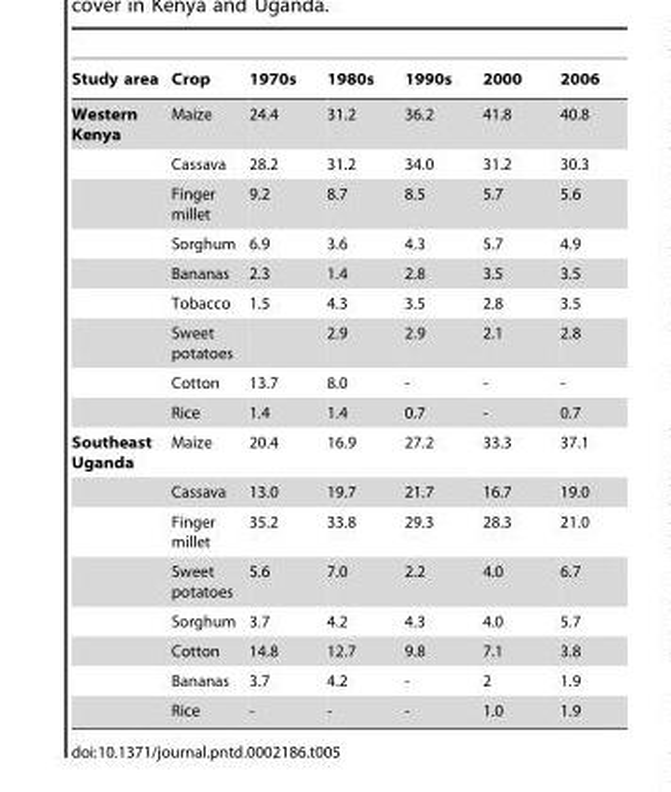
<table><thead><tr><td>Study area</td><td>Crop</td><td>1970s</td><td>1980s</td><td>1990s</td><td>2000</td><td>2006</td></tr></thead><tbody><tr><td rowspan="9">Western Kenya</td><td>Maize</td><td>24.4</td><td>31.2</td><td>36.2</td><td>41.8</td><td>40.8</td></tr><tr><td>Cassava</td><td>28.2</td><td>31.2</td><td>34.0</td><td>31.2</td><td>30.3</td></tr><tr><td>Finger millet</td><td>9.2</td><td>8.7</td><td>8.5</td><td>5.7</td><td>5.6</td></tr><tr><td>Sorghum</td><td>6.9</td><td>3.6</td><td>4.3</td><td>5.7</td><td>4.9</td></tr><tr><td>Bananas</td><td>2.3</td><td>1.4</td><td>2.8</td><td>3.5</td><td>3.5</td></tr><tr><td>Tobacco</td><td>1.5</td><td>4.3</td><td>3.5</td><td>2.8</td><td>3.5</td></tr><tr><td>Sweet potatoes</td><td></td><td>2.9</td><td>2.9</td><td>2.1</td><td>2.8</td></tr><tr><td>Cotton</td><td>13.7</td><td>8.0</td><td>-</td><td>-</td><td>-</td></tr><tr><td>Rice</td><td>1.4</td><td>1.4</td><td>0.7</td><td>-</td><td>0.7</td></tr><tr><td rowspan="8">Southeast Uganda</td><td>Maize</td><td>20.4</td><td>16.9</td><td>27.2</td><td>33.3</td><td>37.1</td></tr><tr><td>Cassava</td><td>13.0</td><td>19.7</td><td>21.7</td><td>16.7</td><td>19.0</td></tr><tr><td>Finger millet</td><td>35.2</td><td>33.8</td><td>29.3</td><td>28.3</td><td>21.0</td></tr><tr><td>Sweet potatoes</td><td>5.6</td><td>7.0</td><td>2.2</td><td>4.0</td><td>6.7</td></tr><tr><td>Sorghum</td><td>3.7</td><td>4.2</td><td>4.3</td><td>4.0</td><td>5.7</td></tr><tr><td>Cotton</td><td>14.8</td><td>12.7</td><td>9.8</td><td>7.1</td><td>3.8</td></tr><tr><td>Bananas</td><td>3.7</td><td>4.2</td><td>-</td><td>2</td><td>1.9</td></tr><tr><td>Rice</td><td>-</td><td>-</td><td>-</td><td>1.0</td><td>1.9</td></tr></tbody></table>